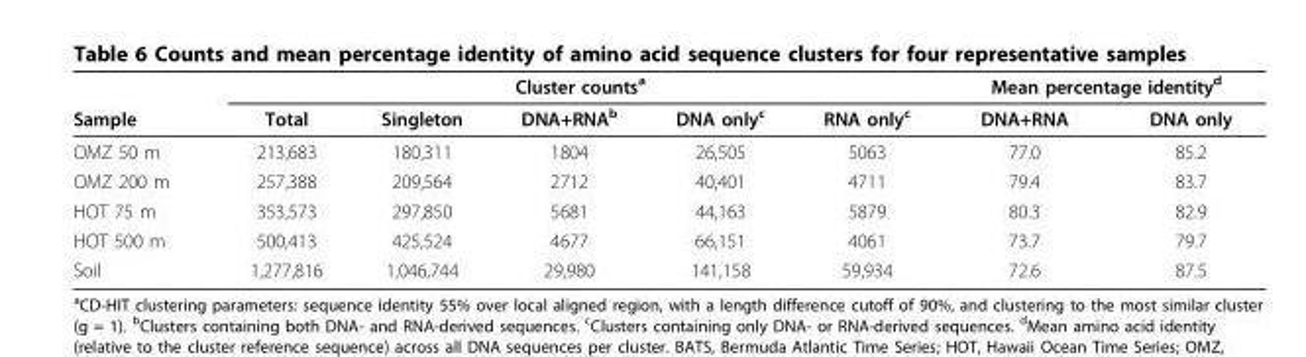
<table><thead><tr><td rowspan="2">Sample</td><td colspan="5">Cluster counts<sup>a</sup></td><td colspan="2">Mean percentage identity<sup>d</sup></td></tr><tr><td>Total</td><td>Singleton</td><td>DNA+RNA<sup>b</sup></td><td>DNA only<sup>c</sup></td><td>RNA only<sup>c</sup></td><td>DNA+RNA</td><td>DNA only</td></tr></thead><tbody><tr><td>OMZ 50 m</td><td>213,683</td><td>180,311</td><td>1804</td><td>26,505</td><td>5063</td><td>77.0</td><td>85.2</td></tr><tr><td>OMZ 200 m</td><td>257,388</td><td>209,564</td><td>2712</td><td>40,401</td><td>4711</td><td>79.4</td><td>83.7</td></tr><tr><td>HOT 75 m</td><td>353,573</td><td>297,850</td><td>5681</td><td>44,163</td><td>5879</td><td>80.3</td><td>82.9</td></tr><tr><td>HOT 500 m</td><td>500,413</td><td>425,524</td><td>4677</td><td>66,151</td><td>4061</td><td>73.7</td><td>79.7</td></tr><tr><td>Soil</td><td>1,277,816</td><td>1,046,744</td><td>29,980</td><td>141,158</td><td>59,934</td><td>72.6</td><td>87.5</td></tr></tbody></table>